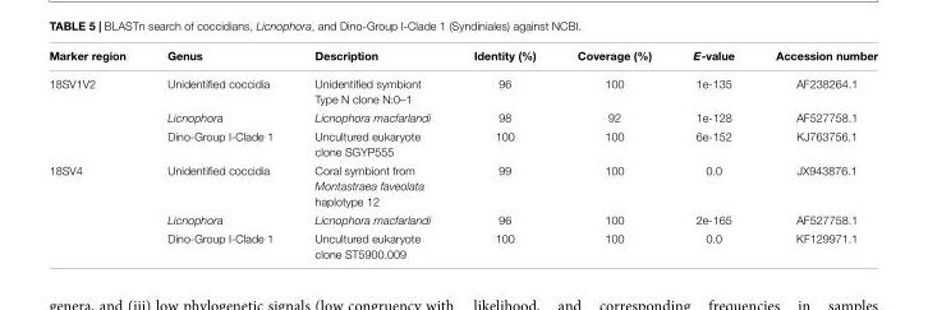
<table><thead><tr><td>Marker region</td><td>Genus</td><td>Description</td><td>Identity (%)</td><td>Coverage (%)</td><td>E-value</td><td>Accession number</td></tr></thead><tbody><tr><td rowspan="3">18SV1V2</td><td>Unidentified coccidia</td><td>Unidentified symbiont Type N clone N:0–1</td><td>96</td><td>100</td><td>1e-135</td><td>AF238264.1</td></tr><tr><td>Licnophora</td><td>Licnophora macfarlandi</td><td>98</td><td>92</td><td>1e-128</td><td>AF527758.1</td></tr><tr><td>Dino-Group I-Clade 1</td><td>Uncultured eukaryote clone SGYP555</td><td>100</td><td>100</td><td>6e-152</td><td>KJ763756.1</td></tr><tr><td rowspan="3">18SV4</td><td>Unidentified coccidia</td><td>Coral symbiont from Montastraea faveolata haplotype 12</td><td>99</td><td>100</td><td>0.0</td><td>JX943876.1</td></tr><tr><td>Licnophora</td><td>Licnophora macfarlandi</td><td>96</td><td>100</td><td>2e-165</td><td>AF527758.1</td></tr><tr><td>Dino-Group I-Clade 1</td><td>Uncultured eukaryote clone ST5900.009</td><td>100</td><td>100</td><td>0.0</td><td>KF129971.1</td></tr></tbody></table>